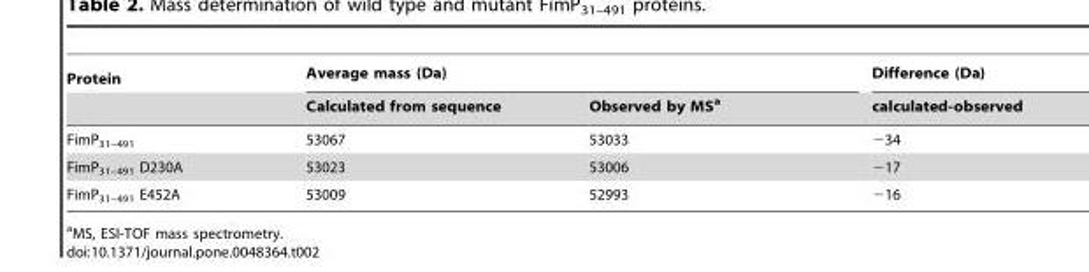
<table><thead><tr><td rowspan="2">Protein</td><td colspan="2">Average mass (Da)</td><td rowspan="2">Difference (Da) calculated-observed</td></tr><tr><td>Calculated from sequence</td><td>Observed by MS<sup>a</sup></td></tr></thead><tbody><tr><td>FimP<sub>31–491</sub></td><td>53067</td><td>53033</td><td>−34</td></tr><tr><td>FimP<sub>31–491</sub> D230A</td><td>53023</td><td>53006</td><td>−17</td></tr><tr><td>FimP<sub>31–491</sub> E452A</td><td>53009</td><td>52993</td><td>−16</td></tr></tbody></table>